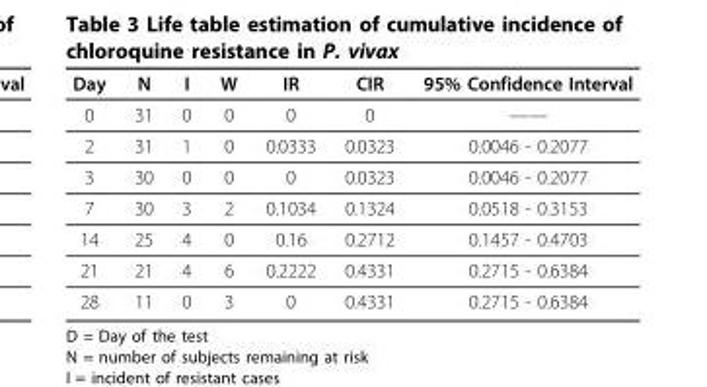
<table><thead><tr><td>Day</td><td>N</td><td>I</td><td>W</td><td>IR</td><td>CIR</td><td>95% Confidence Interval</td></tr></thead><tbody><tr><td>0</td><td>31</td><td>0</td><td>0</td><td>0</td><td>0</td><td>——</td></tr><tr><td>2</td><td>31</td><td>1</td><td>0</td><td>0.0333</td><td>0.0323</td><td>0.0046 - 0.2077</td></tr><tr><td>3</td><td>30</td><td>0</td><td>0</td><td>0</td><td>0.0323</td><td>0.0046 - 0.2077</td></tr><tr><td>7</td><td>30</td><td>3</td><td>2</td><td>0.1034</td><td>0.1324</td><td>0.0518 - 0.3153</td></tr><tr><td>14</td><td>25</td><td>4</td><td>0</td><td>0.16</td><td>0.2712</td><td>0.1457 - 0.4703</td></tr><tr><td>21</td><td>21</td><td>4</td><td>6</td><td>0.2222</td><td>0.4331</td><td>0.2715 - 0.6384</td></tr><tr><td>28</td><td>11</td><td>0</td><td>3</td><td>0</td><td>0.4331</td><td>0.2715 - 0.6384</td></tr></tbody></table>